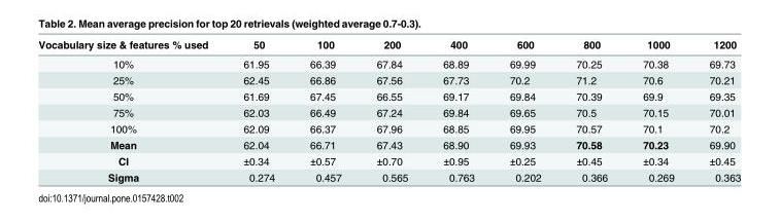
<table><thead><tr><td>Vocabulary size &amp; features % used</td><td>50</td><td>100</td><td>200</td><td>400</td><td>600</td><td>800</td><td>1000</td><td>1200</td></tr></thead><tbody><tr><td>10%</td><td>61.95</td><td>66.39</td><td>67.84</td><td>68.89</td><td>69.99</td><td>70.25</td><td>70.38</td><td>69.73</td></tr><tr><td>25%</td><td>62.45</td><td>66.86</td><td>67.56</td><td>67.73</td><td>70.2</td><td>71.2</td><td>70.6</td><td>70.21</td></tr><tr><td>50%</td><td>61.69</td><td>67.45</td><td>66.55</td><td>69.17</td><td>69.84</td><td>70.39</td><td>69.9</td><td>69.35</td></tr><tr><td>75%</td><td>62.03</td><td>66.49</td><td>67.24</td><td>69.84</td><td>69.65</td><td>70.5</td><td>70.15</td><td>70.01</td></tr><tr><td>100%</td><td>62.09</td><td>66.37</td><td>67.96</td><td>68.85</td><td>69.95</td><td>70.57</td><td>70.1</td><td>70.2</td></tr><tr><td>Mean</td><td>62.04</td><td>66.71</td><td>67.43</td><td>68.90</td><td>69.93</td><td>70.58</td><td>70.23</td><td>69.90</td></tr><tr><td>CI</td><td>±0.34</td><td>±0.57</td><td>±0.70</td><td>±0.95</td><td>±0.25</td><td>±0.45</td><td>±0.34</td><td>±0.45</td></tr><tr><td>Sigma</td><td>0.274</td><td>0.457</td><td>0.565</td><td>0.763</td><td>0.202</td><td>0.366</td><td>0.269</td><td>0.363</td></tr></tbody></table>